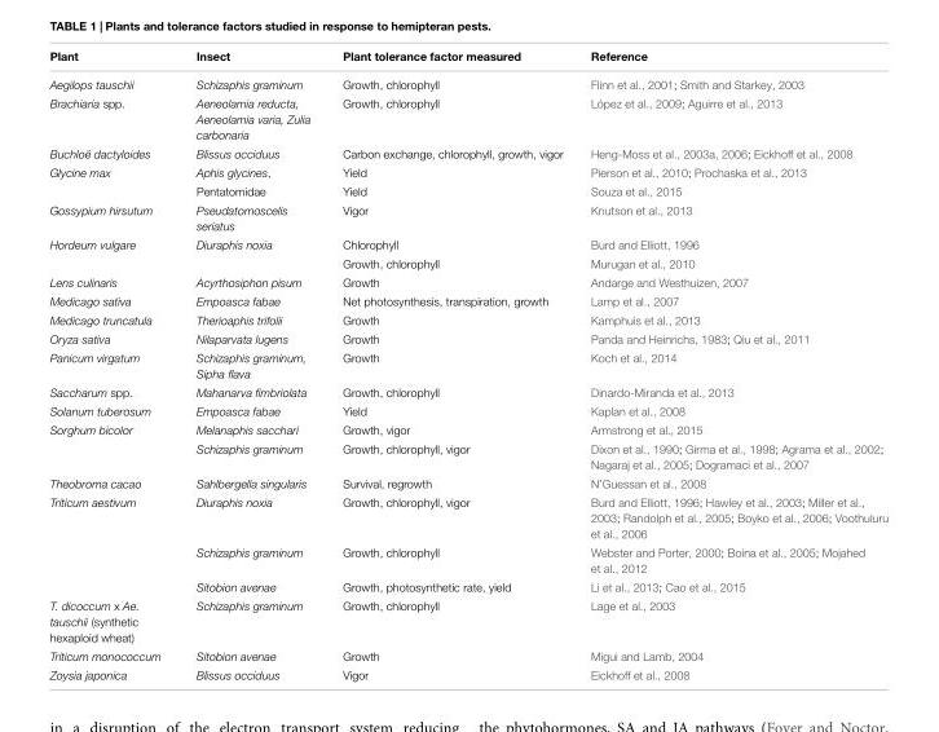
<table><thead><tr><td>Plant</td><td>Insect</td><td>Plant tolerance factor measured</td><td>Reference</td></tr></thead><tbody><tr><td>Aegilops tauschii</td><td>Schizaphis graminum</td><td>Growth, chlorophyll</td><td>Flinn et al., 2001; Smith and Starkey, 2003</td></tr><tr><td>Brachiaria spp.</td><td>Aeneolamia reducta, Aeneolamia varia, Zulia carbonaria</td><td>Growth, chlorophyll</td><td>López et al., 2009; Aguirre et al., 2013</td></tr><tr><td>Buchloë dactyloides</td><td>Blissus occiduus</td><td>Carbon exchange, chlorophyll, growth, vigor</td><td>Heng-Moss et al., 2003a, 2006; Eickhoff et al., 2008</td></tr><tr><td rowspan="2">Glycine max</td><td>Aphis glycines,</td><td>Yield</td><td>Pierson et al., 2010; Prochaska et al., 2013</td></tr><tr><td>Pentatomidae</td><td>Yield</td><td>Souza et al., 2015</td></tr><tr><td>Gossypium hirsutum</td><td>Pseudatomoscelis seriatus</td><td>Vigor</td><td>Knutson et al., 2013</td></tr><tr><td rowspan="2">Hordeum vulgare</td><td>Diuraphis noxia</td><td>Chlorophyll</td><td>Burd and Elliott, 1996</td></tr><tr><td></td><td>Growth, chlorophyll</td><td>Murugan et al., 2010</td></tr><tr><td>Lens culinaris</td><td>Acyrthosiphon pisum</td><td>Growth</td><td>Andarge and Westhuizen, 2007</td></tr><tr><td>Medicago sativa</td><td>Empoasca fabae</td><td>Net photosynthesis, transpiration, growth</td><td>Lamp et al., 2007</td></tr><tr><td>Medicago truncatula</td><td>Therioaphis trifolii</td><td>Growth</td><td>Kamphuis et al., 2013</td></tr><tr><td>Oryza sativa</td><td>Nilaparvata lugens</td><td>Growth</td><td>Panda and Heinrichs, 1983; Qiu et al., 2011</td></tr><tr><td>Panicum virgatum</td><td>Schizaphis graminum, Sipha flava</td><td>Growth</td><td>Koch et al., 2014</td></tr><tr><td>Saccharum spp.</td><td>Mahanarva fimbriolata</td><td>Growth, chlorophyll</td><td>Dinardo-Miranda et al., 2013</td></tr><tr><td>Solanum tuberosum</td><td>Empoasca fabae</td><td>Yield</td><td>Kaplan et al., 2008</td></tr><tr><td rowspan="2">Sorghum bicolor</td><td>Melanaphis sacchari</td><td>Growth, vigor</td><td>Armstrong et al., 2015</td></tr><tr><td>Schizaphis graminum</td><td>Growth, chlorophyll, vigor</td><td>Dixon et al., 1990; Girma et al., 1998; Agrama et al., 2002; Nagaraj et al., 2005; Dogramaci et al., 2007</td></tr><tr><td>Theobroma cacao</td><td>Sahlbergella singularis</td><td>Survival, regrowth</td><td>N’Guessan et al., 2008</td></tr><tr><td rowspan="3">Triticum aestivum</td><td>Diuraphis noxia</td><td>Growth, chlorophyll, vigor</td><td>Burd and Elliott, 1996; Hawley et al., 2003; Miller et al., 2003; Randolph et al., 2005; Boyko et al., 2006; Voothuluru et al., 2006</td></tr><tr><td>Schizaphis graminum</td><td>Growth, chlorophyll</td><td>Webster and Porter, 2000; Boina et al., 2005; Mojahed et al., 2012</td></tr><tr><td>Sitobion avenae</td><td>Growth, photosynthetic rate, yield</td><td>Li et al., 2013; Cao et al., 2015</td></tr><tr><td>T. dicoccum x Ae. tauschii (synthetic hexaploid wheat)</td><td>Schizaphis graminum</td><td>Growth, chlorophyll</td><td>Lage et al., 2003</td></tr><tr><td>Triticum monococcum</td><td>Sitobion avenae</td><td>Growth</td><td>Migui and Lamb, 2004</td></tr><tr><td>Zoysia japonica</td><td>Blissus occiduus</td><td>Vigor</td><td>Eickhoff et al., 2008</td></tr></tbody></table>